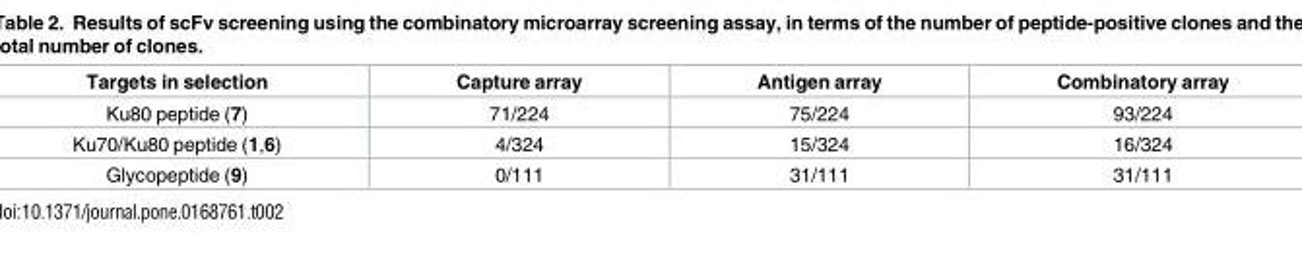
<table><thead><tr><td>Targets in selection</td><td>Capture array</td><td>Antigen array</td><td>Combinatory array</td></tr></thead><tbody><tr><td>Ku80 peptide (7)</td><td>71/224</td><td>75/224</td><td>93/224</td></tr><tr><td>Ku70/Ku80 peptide (1,6)</td><td>4/324</td><td>15/324</td><td>16/324</td></tr><tr><td>Glycopeptide (9)</td><td>0/111</td><td>31/111</td><td>31/111</td></tr></tbody></table>